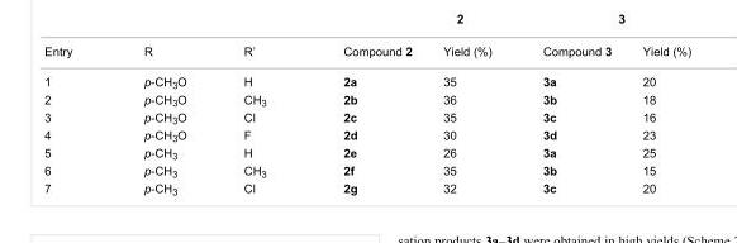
<table><tbody><tr><td>Entry</td><td>R</td><td>R’</td><td>Compound 2</td><td>Yield (%)</td><td>Compound 3</td><td>Yield (%)</td></tr><tr><td>1</td><td>p-CH<sub>3</sub>O</td><td>H</td><td>2a</td><td>35</td><td>3a</td><td>20</td></tr><tr><td>2</td><td>p-CH<sub>3</sub>O</td><td>CH<sub>3</sub></td><td>2b</td><td>36</td><td>3b</td><td>18</td></tr><tr><td>3</td><td>p-CH<sub>3</sub>O</td><td>Cl</td><td>2c</td><td>35</td><td>3c</td><td>16</td></tr><tr><td>4</td><td>p-CH<sub>3</sub>O</td><td>F</td><td>2d</td><td>30</td><td>3d</td><td>23</td></tr><tr><td>5</td><td>p-CH<sub>3</sub></td><td>H</td><td>2e</td><td>26</td><td>3a</td><td>25</td></tr><tr><td>6</td><td>p-CH<sub>3</sub></td><td>CH<sub>3</sub></td><td>2f</td><td>35</td><td>3b</td><td>15</td></tr><tr><td>7</td><td>p-CH<sub>3</sub></td><td>Cl</td><td>2g</td><td>32</td><td>3c</td><td>20</td></tr></tbody></table>